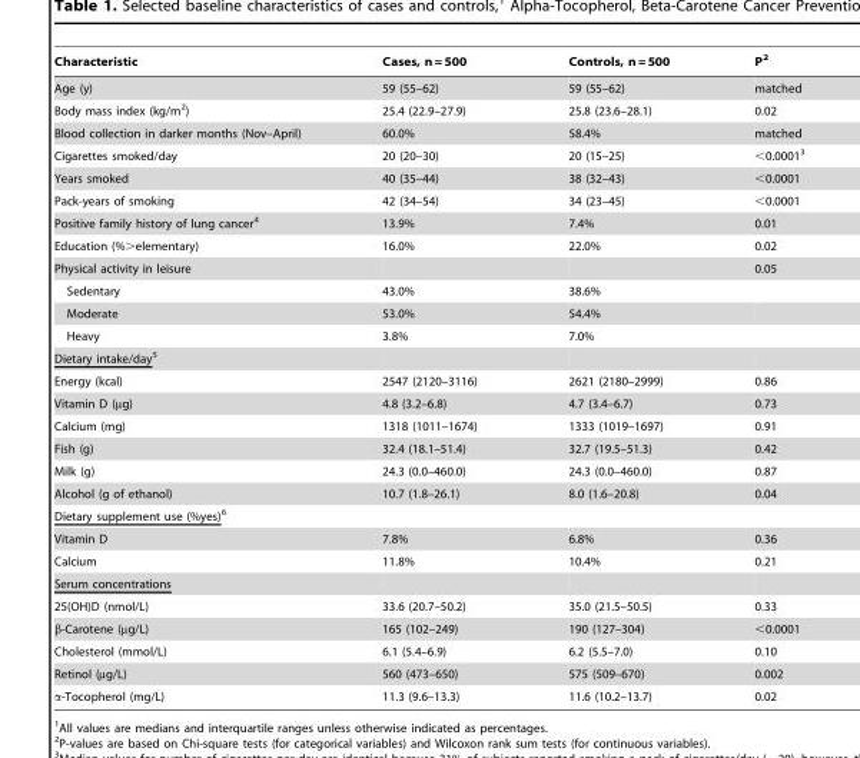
<table><thead><tr><td>Characteristic</td><td>Cases, n = 500</td><td>Controls, n = 500</td><td>P<sup>2</sup></td></tr></thead><tbody><tr><td>Age (y)</td><td>59 (55–62)</td><td>59 (55–62)</td><td>matched</td></tr><tr><td>Body mass index (kg/m<sup>2</sup>)</td><td>25.4 (22.9–27.9)</td><td>25.8 (23.6–28.1)</td><td>0.02</td></tr><tr><td>Blood collection in darker months (Nov–April)</td><td>60.0%</td><td>58.4%</td><td>matched</td></tr><tr><td>Cigarettes smoked/day</td><td>20 (20–30)</td><td>20 (15–25)</td><td>&lt;0.0001<sup>3</sup></td></tr><tr><td>Years smoked</td><td>40 (35–44)</td><td>38 (32–43)</td><td>&lt;0.0001</td></tr><tr><td>Pack-years of smoking</td><td>42 (34–54)</td><td>34 (23–45)</td><td>&lt;0.0001</td></tr><tr><td>Positive family history of lung cancer<sup>4</sup></td><td>13.9%</td><td>7.4%</td><td>0.01</td></tr><tr><td>Education (%&gt;elementary)</td><td>16.0%</td><td>22.0%</td><td>0.02</td></tr><tr><td>Physical activity in leisure</td><td></td><td></td><td>0.05</td></tr><tr><td>Sedentary</td><td>43.0%</td><td>38.6%</td><td></td></tr><tr><td>Moderate</td><td>53.0%</td><td>54.4%</td><td></td></tr><tr><td>Heavy</td><td>3.8%</td><td>7.0%</td><td></td></tr><tr><td colspan="4">Dietary intake/day5</td></tr><tr><td>Energy (kcal)</td><td>2547 (2120–3116)</td><td>2621 (2180–2999)</td><td>0.86</td></tr><tr><td>Vitamin D (µg)</td><td>4.8 (3.2–6.8)</td><td>4.7 (3.4–6.7)</td><td>0.73</td></tr><tr><td>Calcium (mg)</td><td>1318 (1011–1674)</td><td>1333 (1019–1697)</td><td>0.91</td></tr><tr><td>Fish (g)</td><td>32.4 (18.1–51.4)</td><td>32.7 (19.5–51.3)</td><td>0.42</td></tr><tr><td>Milk (g)</td><td>24.3 (0.0–460.0)</td><td>24.3 (0.0–460.0)</td><td>0.87</td></tr><tr><td>Alcohol (g of ethanol)</td><td>10.7 (1.8–26.1)</td><td>8.0 (1.6–20.8)</td><td>0.04</td></tr><tr><td colspan="4">Dietary supplement use (%yes)6</td></tr><tr><td>Vitamin D</td><td>7.8%</td><td>6.8%</td><td>0.36</td></tr><tr><td>Calcium</td><td>11.8%</td><td>10.4%</td><td>0.21</td></tr><tr><td colspan="4">Serum concentrations</td></tr><tr><td>25(OH)D (nmol/L)</td><td>33.6 (20.7–50.2)</td><td>35.0 (21.5–50.5)</td><td>0.33</td></tr><tr><td>β-Carotene (µg/L)</td><td>165 (102–249)</td><td>190 (127–304)</td><td>&lt;0.0001</td></tr><tr><td>Cholesterol (mmol/L)</td><td>6.1 (5.4–6.9)</td><td>6.2 (5.5–7.0)</td><td>0.10</td></tr><tr><td>Retinol (µg/L)</td><td>560 (473–650)</td><td>575 (509–670)</td><td>0.002</td></tr><tr><td>α-Tocopherol (mg/L)</td><td>11.3 (9.6–13.3)</td><td>11.6 (10.2–13.7)</td><td>0.02</td></tr></tbody></table>